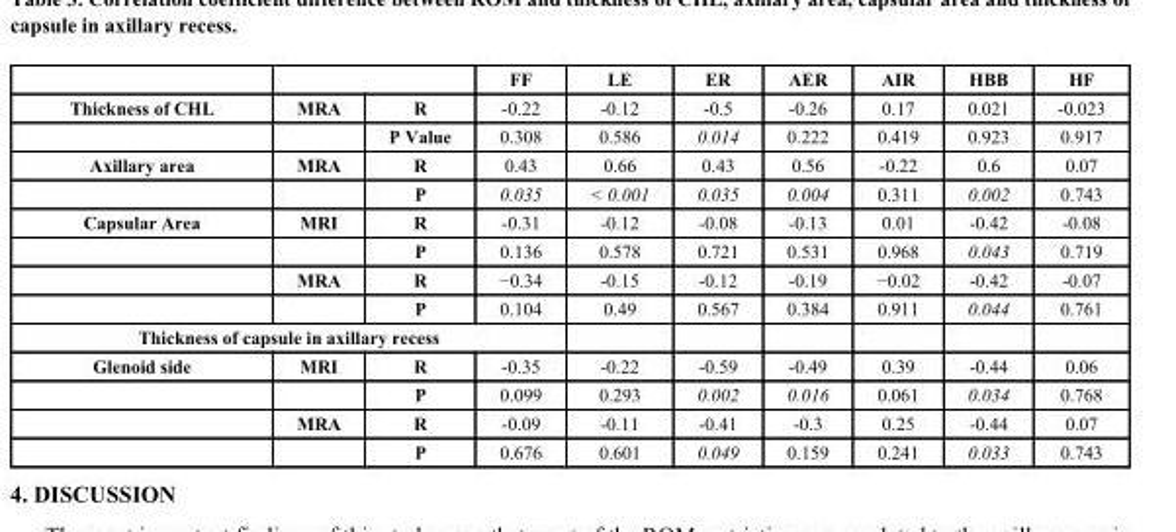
<table><thead><tr><td></td><td></td><td></td><td>FF</td><td>LE</td><td>ER</td><td>AER</td><td>AIR</td><td>HBB</td><td>HF</td></tr></thead><tbody><tr><td rowspan="2">Thickness of CHL</td><td>MRA</td><td>R</td><td>-0.22</td><td>-0.12</td><td>-0.5</td><td>-0.26</td><td>0.17</td><td>0.021</td><td>-0.023</td></tr><tr><td></td><td>P Value</td><td>0.308</td><td>0.586</td><td>0.014</td><td>0.222</td><td>0.419</td><td>0.923</td><td>0.917</td></tr><tr><td rowspan="2">Axillary area</td><td>MRA</td><td>R</td><td>0.43</td><td>0.66</td><td>0.43</td><td>0.56</td><td>-0.22</td><td>0.6</td><td>0.07</td></tr><tr><td></td><td>P</td><td>0.035</td><td>&lt; 0.001</td><td>0.035</td><td>0.004</td><td>0.311</td><td>0.002</td><td>0.743</td></tr><tr><td rowspan="4">Capsular Area</td><td>MRI</td><td>R</td><td>-0.31</td><td>-0.12</td><td>-0.08</td><td>-0.13</td><td>0.01</td><td>-0.42</td><td>-0.08</td></tr><tr><td></td><td>P</td><td>0.136</td><td>0.578</td><td>0.721</td><td>0.531</td><td>0.968</td><td>0.043</td><td>0.719</td></tr><tr><td>MRA</td><td>R</td><td>−0.34</td><td>-0.15</td><td>-0.12</td><td>-0.19</td><td>−0.02</td><td>-0.42</td><td>-0.07</td></tr><tr><td></td><td>P</td><td>0.104</td><td>0.49</td><td>0.567</td><td>0.384</td><td>0.911</td><td>0.044</td><td>0.761</td></tr><tr><td colspan="10">Thickness of capsule in axillary recess</td></tr><tr><td rowspan="4">Glenoid side</td><td>MRI</td><td>R</td><td>-0.35</td><td>-0.22</td><td>-0.59</td><td>-0.49</td><td>0.39</td><td>-0.44</td><td>0.06</td></tr><tr><td></td><td>P</td><td>0.099</td><td>0.293</td><td>0.002</td><td>0.016</td><td>0.061</td><td>0.034</td><td>0.768</td></tr><tr><td>MRA</td><td>R</td><td>-0.09</td><td>-0.11</td><td>-0.41</td><td>-0.3</td><td>0.25</td><td>-0.44</td><td>0.07</td></tr><tr><td></td><td>P</td><td>0.676</td><td>0.601</td><td>0.049</td><td>0.159</td><td>0.241</td><td>0.033</td><td>0.743</td></tr></tbody></table>